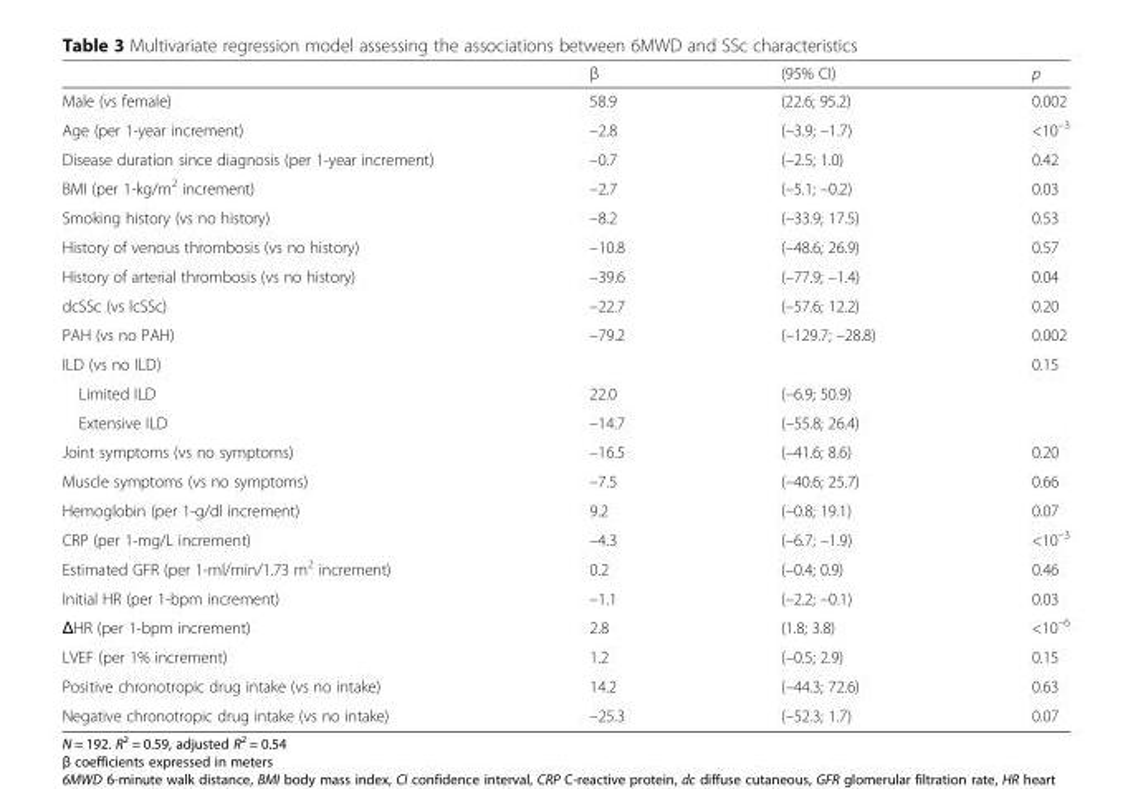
<table><thead><tr><td></td><td>β</td><td>(95% CI)</td><td>p</td></tr></thead><tbody><tr><td>Male (vs female)</td><td>58.9</td><td>(22.6; 95.2)</td><td>0.002</td></tr><tr><td>Age (per 1-year increment)</td><td>–2.8</td><td>(–3.9; –1.7)</td><td>&lt;10<sup>–3</sup></td></tr><tr><td>Disease duration since diagnosis (per 1-year increment)</td><td>–0.7</td><td>(–2.5; 1.0)</td><td>0.42</td></tr><tr><td>BMI (per 1-kg/m<sup>2</sup> increment)</td><td>–2.7</td><td>(–5.1; –0.2)</td><td>0.03</td></tr><tr><td>Smoking history (vs no history)</td><td>–8.2</td><td>(–33.9; 17.5)</td><td>0.53</td></tr><tr><td>History of venous thrombosis (vs no history)</td><td>–10.8</td><td>(–48.6; 26.9)</td><td>0.57</td></tr><tr><td>History of arterial thrombosis (vs no history)</td><td>–39.6</td><td>(–77.9; –1.4)</td><td>0.04</td></tr><tr><td>dcSSc (vs lcSSc)</td><td>–22.7</td><td>(–57.6; 12.2)</td><td>0.20</td></tr><tr><td>PAH (vs no PAH)</td><td>–79.2</td><td>(–129.7; –28.8)</td><td>0.002</td></tr><tr><td>ILD (vs no ILD)</td><td></td><td></td><td>0.15</td></tr><tr><td>Limited ILD</td><td>22.0</td><td>(–6.9; 50.9)</td><td></td></tr><tr><td>Extensive ILD</td><td>–14.7</td><td>(–55.8; 26.4)</td><td></td></tr><tr><td>Joint symptoms (vs no symptoms)</td><td>–16.5</td><td>(–41.6; 8.6)</td><td>0.20</td></tr><tr><td>Muscle symptoms (vs no symptoms)</td><td>–7.5</td><td>(–40.6; 25.7)</td><td>0.66</td></tr><tr><td>Hemoglobin (per 1-g/dl increment)</td><td>9.2</td><td>(–0.8; 19.1)</td><td>0.07</td></tr><tr><td>CRP (per 1-mg/L increment)</td><td>–4.3</td><td>(–6.7; –1.9)</td><td>&lt;10<sup>–3</sup></td></tr><tr><td>Estimated GFR (per 1-ml/min/1.73 m<sup>2</sup> increment)</td><td>0.2</td><td>(–0.4; 0.9)</td><td>0.46</td></tr><tr><td>Initial HR (per 1-bpm increment)</td><td>–1.1</td><td>(–2.2; –0.1)</td><td>0.03</td></tr><tr><td>ΔHR (per 1-bpm increment)</td><td>2.8</td><td>(1.8; 3.8)</td><td>&lt;10<sup>–6</sup></td></tr><tr><td>LVEF (per 1% increment)</td><td>1.2</td><td>(–0.5; 2.9)</td><td>0.15</td></tr><tr><td>Positive chronotropic drug intake (vs no intake)</td><td>14.2</td><td>(–44.3; 72.6)</td><td>0.63</td></tr><tr><td>Negative chronotropic drug intake (vs no intake)</td><td>–25.3</td><td>(–52.3; 1.7)</td><td>0.07</td></tr></tbody></table>